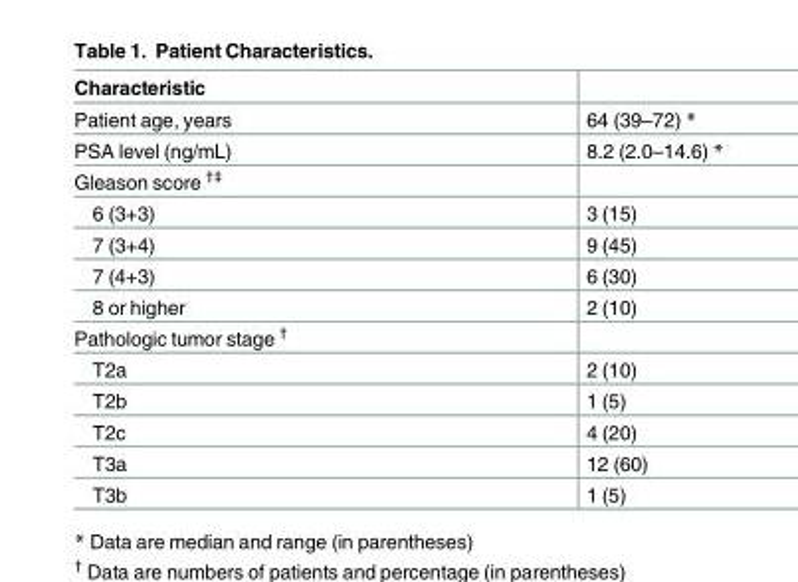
<table><thead><tr><td>Characteristic</td><td></td></tr></thead><tbody><tr><td>Patient age, years</td><td>64 (39–72) *</td></tr><tr><td>PSA level (ng/mL)</td><td>8.2 (2.0–14.6) *</td></tr><tr><td colspan="2">Gleason score †‡</td></tr><tr><td>6 (3+3)</td><td>3 (15)</td></tr><tr><td>7 (3+4)</td><td>9 (45)</td></tr><tr><td>7 (4+3)</td><td>6 (30)</td></tr><tr><td>8 or higher</td><td>2 (10)</td></tr><tr><td colspan="2">Pathologic tumor stage <sup>†</sup></td></tr><tr><td>T2a</td><td>2 (10)</td></tr><tr><td>T2b</td><td>1 (5)</td></tr><tr><td>T2c</td><td>4 (20)</td></tr><tr><td>T3a</td><td>12 (60)</td></tr><tr><td>T3b</td><td>1 (5)</td></tr></tbody></table>